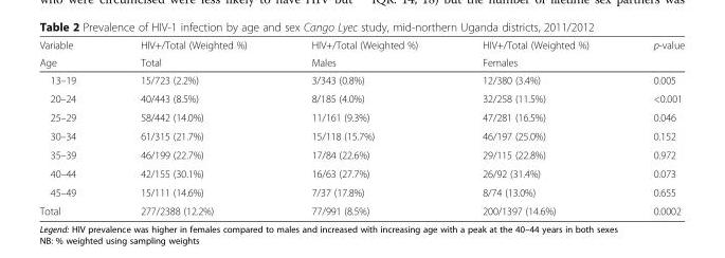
<table><thead><tr><td rowspan="2">Variable Age</td><td rowspan="2">HIV+/Total (Weighted %) Total</td><td rowspan="2">HIV+/Total (Weighted %) Males</td><td rowspan="2">HIV+/Total (Weighted %) Females</td><td rowspan="2">p-value</td></tr><tr></tr></thead><tbody><tr><td>13–19</td><td>15/723 (2.2%)</td><td>3/343 (0.8%)</td><td>12/380 (3.4%)</td><td>0.005</td></tr><tr><td>20–24</td><td>40/443 (8.5%)</td><td>8/185 (4.0%)</td><td>32/258 (11.5%)</td><td>&lt;0.001</td></tr><tr><td>25–29</td><td>58/442 (14.0%)</td><td>11/161 (9.3%)</td><td>47/281 (16.5%)</td><td>0.046</td></tr><tr><td>30–34</td><td>61/315 (21.7%)</td><td>15/118 (15.7%)</td><td>46/197 (25.0%)</td><td>0.152</td></tr><tr><td>35–39</td><td>46/199 (22.7%)</td><td>17/84 (22.6%)</td><td>29/115 (22.8%)</td><td>0.972</td></tr><tr><td>40–44</td><td>42/155 (30.1%)</td><td>16/63 (27.7%)</td><td>26/92 (31.4%)</td><td>0.073</td></tr><tr><td>45–49</td><td>15/111 (14.6%)</td><td>7/37 (17.8%)</td><td>8/74 (13.0%)</td><td>0.655</td></tr><tr><td>Total</td><td>277/2388 (12.2%)</td><td>77/991 (8.5%)</td><td>200/1397 (14.6%)</td><td>0.0002</td></tr></tbody></table>